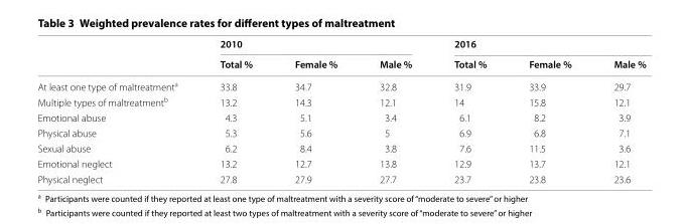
<table><thead><tr><td rowspan="2"></td><td colspan="3">2010</td><td colspan="3">2016</td></tr><tr><td>Total %</td><td>Female %</td><td>Male %</td><td>Total %</td><td>Female %</td><td>Male %</td></tr></thead><tbody><tr><td>At least one type of maltreatment<sup>a</sup></td><td>33.8</td><td>34.7</td><td>32.8</td><td>31.9</td><td>33.9</td><td>29.7</td></tr><tr><td>Multiple types of maltreatment<sup>b</sup></td><td>13.2</td><td>14.3</td><td>12.1</td><td>14</td><td>15.8</td><td>12.1</td></tr><tr><td>Emotional abuse</td><td>4.3</td><td>5.1</td><td>3.4</td><td>6.1</td><td>8.2</td><td>3.9</td></tr><tr><td>Physical abuse</td><td>5.3</td><td>5.6</td><td>5</td><td>6.9</td><td>6.8</td><td>7.1</td></tr><tr><td>Sexual abuse</td><td>6.2</td><td>8.4</td><td>3.8</td><td>7.6</td><td>11.5</td><td>3.6</td></tr><tr><td>Emotional neglect</td><td>13.2</td><td>12.7</td><td>13.8</td><td>12.9</td><td>13.7</td><td>12.1</td></tr><tr><td>Physical neglect</td><td>27.8</td><td>27.9</td><td>27.7</td><td>23.7</td><td>23.8</td><td>23.6</td></tr></tbody></table>